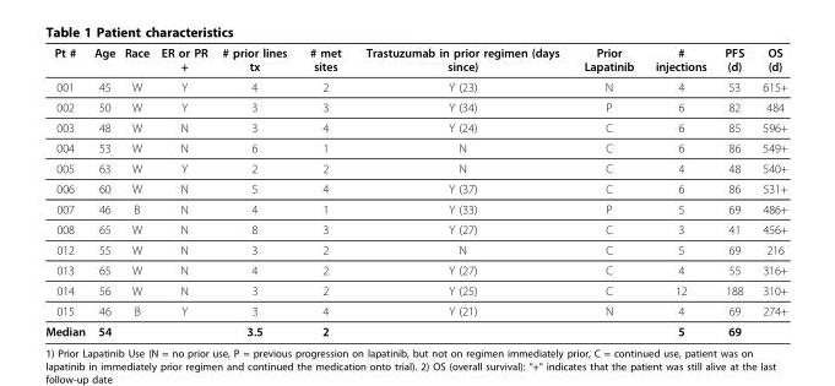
<table><thead><tr><td>Pt #</td><td>Age</td><td>Race</td><td>ER or PR +</td><td># prior lines tx</td><td># met sites</td><td>Trastuzumab in prior regimen (days since)</td><td>Prior Lapatinib</td><td># injections</td><td>PFS (d)</td><td>OS (d)</td></tr></thead><tbody><tr><td>001</td><td>45</td><td>W</td><td>Y</td><td>4</td><td>2</td><td>Y (23)</td><td>N</td><td>4</td><td>53</td><td>615+</td></tr><tr><td>002</td><td>50</td><td>W</td><td>Y</td><td>3</td><td>3</td><td>Y (34)</td><td>P</td><td>6</td><td>82</td><td>484</td></tr><tr><td>003</td><td>48</td><td>W</td><td>N</td><td>3</td><td>4</td><td>Y (24)</td><td>C</td><td>6</td><td>85</td><td>596+</td></tr><tr><td>004</td><td>53</td><td>W</td><td>N</td><td>6</td><td>1</td><td>N</td><td>C</td><td>6</td><td>86</td><td>549+</td></tr><tr><td>005</td><td>63</td><td>W</td><td>Y</td><td>2</td><td>2</td><td>N</td><td>C</td><td>4</td><td>48</td><td>540+</td></tr><tr><td>006</td><td>60</td><td>W</td><td>N</td><td>5</td><td>4</td><td>Y (37)</td><td>C</td><td>6</td><td>86</td><td>531+</td></tr><tr><td>007</td><td>46</td><td>B</td><td>N</td><td>4</td><td>1</td><td>Y (33)</td><td>P</td><td>5</td><td>69</td><td>486+</td></tr><tr><td>008</td><td>65</td><td>W</td><td>N</td><td>8</td><td>3</td><td>Y (27)</td><td>C</td><td>3</td><td>41</td><td>456+</td></tr><tr><td>012</td><td>55</td><td>W</td><td>N</td><td>3</td><td>2</td><td>N</td><td>C</td><td>5</td><td>69</td><td>216</td></tr><tr><td>013</td><td>65</td><td>W</td><td>N</td><td>4</td><td>2</td><td>Y (27)</td><td>C</td><td>4</td><td>55</td><td>316+</td></tr><tr><td>014</td><td>56</td><td>W</td><td>N</td><td>3</td><td>2</td><td>Y (25)</td><td>C</td><td>12</td><td>188</td><td>310+</td></tr><tr><td>015</td><td>46</td><td>B</td><td>Y</td><td>3</td><td>4</td><td>Y (21)</td><td>N</td><td>4</td><td>69</td><td>274+</td></tr><tr><td>Median</td><td>54</td><td></td><td></td><td>3.5</td><td>2</td><td></td><td></td><td>5</td><td>69</td><td></td></tr></tbody></table>